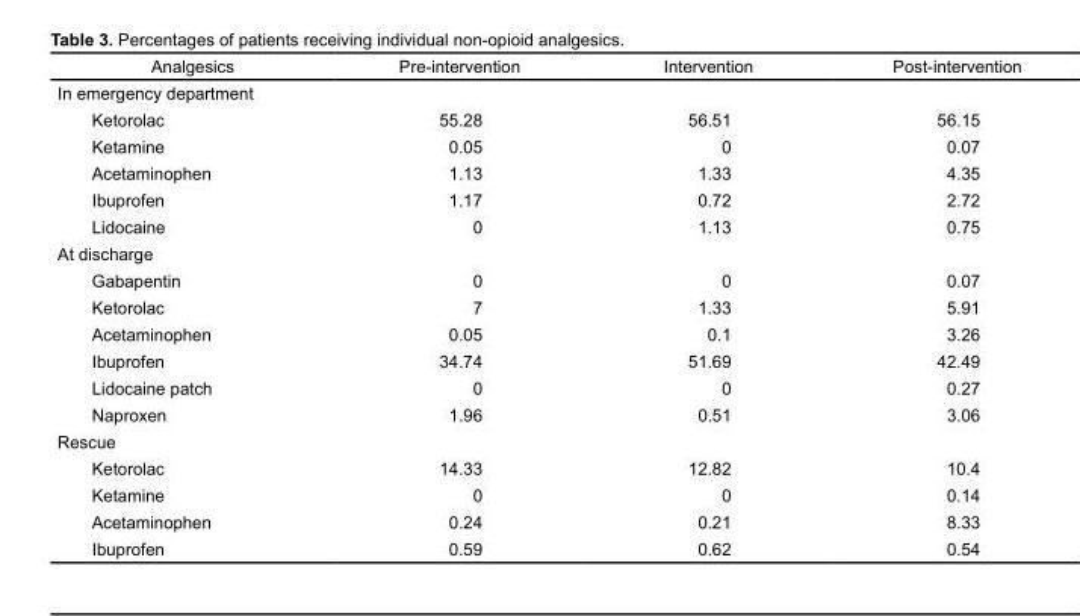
<table><thead><tr><td>Analgesics</td><td>Pre-intervention</td><td>Intervention</td><td>Post-intervention</td></tr></thead><tbody><tr><td colspan="4">In emergency department</td></tr><tr><td>Ketorolac</td><td>55.28</td><td>56.51</td><td>56.15</td></tr><tr><td>Ketamine</td><td>0.05</td><td>0</td><td>0.07</td></tr><tr><td>Acetaminophen</td><td>1.13</td><td>1.33</td><td>4.35</td></tr><tr><td>Ibuprofen</td><td>1.17</td><td>0.72</td><td>2.72</td></tr><tr><td>Lidocaine</td><td>0</td><td>1.13</td><td>0.75</td></tr><tr><td colspan="4">At discharge</td></tr><tr><td>Gabapentin</td><td>0</td><td>0</td><td>0.07</td></tr><tr><td>Ketorolac</td><td>7</td><td>1.33</td><td>5.91</td></tr><tr><td>Acetaminophen</td><td>0.05</td><td>0.1</td><td>3.26</td></tr><tr><td>Ibuprofen</td><td>34.74</td><td>51.69</td><td>42.49</td></tr><tr><td>Lidocaine patch</td><td>0</td><td>0</td><td>0.27</td></tr><tr><td>Naproxen</td><td>1.96</td><td>0.51</td><td>3.06</td></tr><tr><td colspan="4">Rescue</td></tr><tr><td>Ketorolac</td><td>14.33</td><td>12.82</td><td>10.4</td></tr><tr><td>Ketamine</td><td>0</td><td>0</td><td>0.14</td></tr><tr><td>Acetaminophen</td><td>0.24</td><td>0.21</td><td>8.33</td></tr><tr><td>Ibuprofen</td><td>0.59</td><td>0.62</td><td>0.54</td></tr></tbody></table>